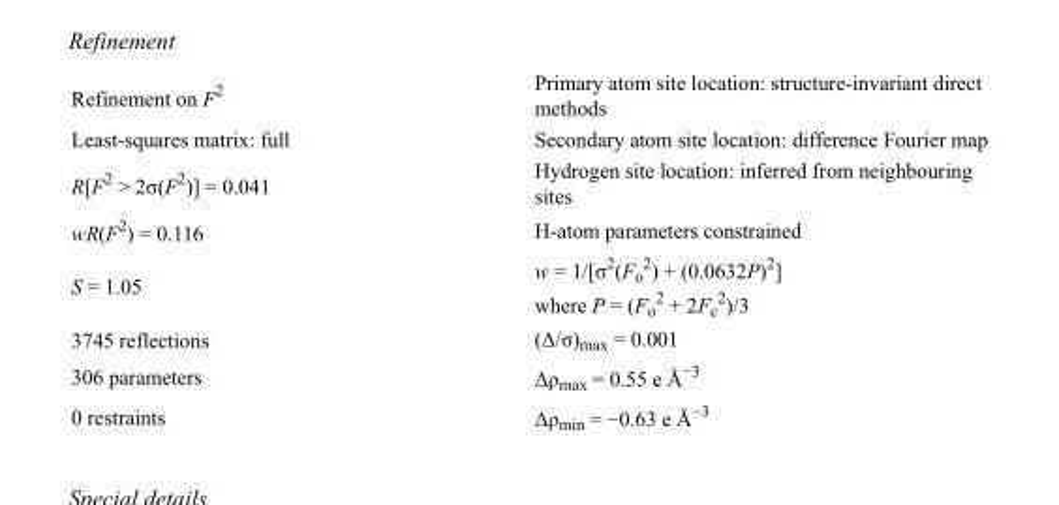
<table><tbody><tr><td>Refinement on F<sup>2</sup></td><td>Primary atom site location: structure-invariant direct methods</td></tr><tr><td>Least-squares matrix: full</td><td>Secondary atom site location: difference Fourier map</td></tr><tr><td>R[F<sup>2</sup> &gt; 2σ(F<sup>2</sup>)] = 0.041</td><td>Hydrogen site location: inferred from neighbouring sites</td></tr><tr><td>wR(F<sup>2</sup>) = 0.116</td><td>H-atom parameters constrained</td></tr><tr><td>S = 1.05</td><td>w = 1/[σ<sup>2</sup>(F<sub>o</sub> <sup>2</sup>) + (0.0632P)<sup>2</sup>] where P = (F<sub>o</sub> <sup>2</sup> + 2F<sub>c</sub> <sup>2</sup>)/3</td></tr><tr><td>3745 reflections</td><td>(Δ/σ)<sub>max</sub> = 0.001</td></tr><tr><td>306 parameters</td><td>Δρ<sub>max</sub> = 0.55 e Å<sup>−3</sup></td></tr><tr><td>0 restraints</td><td>Δρ<sub>min</sub> = −0.63 e Å<sup>−3</sup></td></tr></tbody></table>